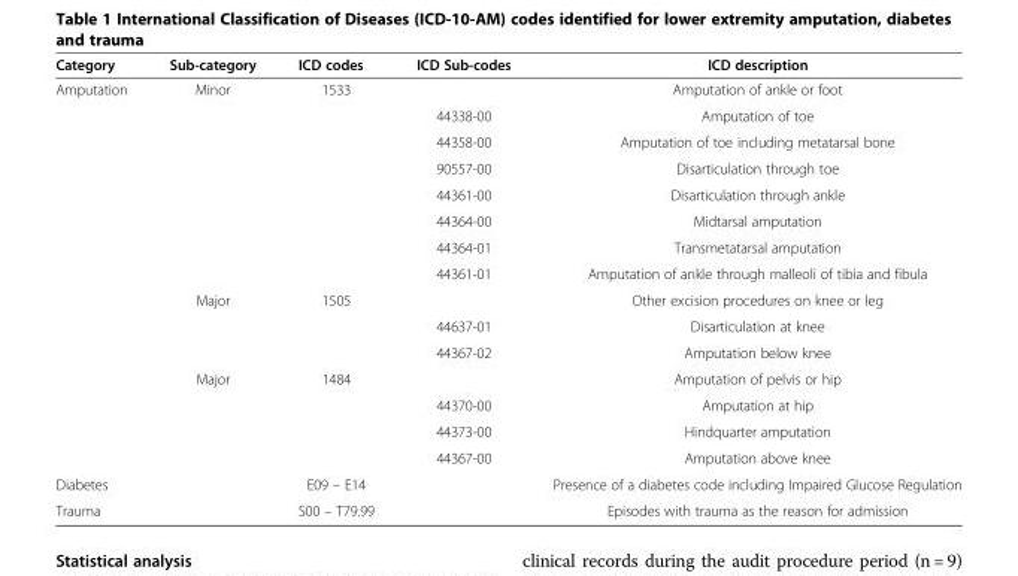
<table><thead><tr><td>Category</td><td>Sub-category</td><td>ICD codes</td><td>ICD Sub-codes</td><td>ICD description</td></tr></thead><tbody><tr><td rowspan="15">Amputation</td><td>Minor</td><td>1533</td><td></td><td>Amputation of ankle or foot</td></tr><tr><td></td><td></td><td>44338-00</td><td>Amputation of toe</td></tr><tr><td></td><td></td><td>44358-00</td><td>Amputation of toe including metatarsal bone</td></tr><tr><td></td><td></td><td>90557-00</td><td>Disarticulation through toe</td></tr><tr><td></td><td></td><td>44361-00</td><td>Disarticulation through ankle</td></tr><tr><td></td><td></td><td>44364-00</td><td>Midtarsal amputation</td></tr><tr><td></td><td></td><td>44364-01</td><td>Transmetatarsal amputation</td></tr><tr><td></td><td></td><td>44361-01</td><td>Amputation of ankle through malleoli of tibia and fibula</td></tr><tr><td>Major</td><td>1505</td><td></td><td>Other excision procedures on knee or leg</td></tr><tr><td></td><td></td><td>44637-01</td><td>Disarticulation at knee</td></tr><tr><td></td><td></td><td>44367-02</td><td>Amputation below knee</td></tr><tr><td>Major</td><td>1484</td><td></td><td>Amputation of pelvis or hip</td></tr><tr><td></td><td></td><td>44370-00</td><td>Amputation at hip</td></tr><tr><td></td><td></td><td>44373-00</td><td>Hindquarter amputation</td></tr><tr><td></td><td></td><td>44367-00</td><td>Amputation above knee</td></tr><tr><td>Diabetes</td><td></td><td>E09 – E14</td><td></td><td>Presence of a diabetes code including Impaired Glucose Regulation</td></tr><tr><td>Trauma</td><td></td><td>S00 – T79.99</td><td></td><td>Episodes with trauma as the reason for admission</td></tr></tbody></table>